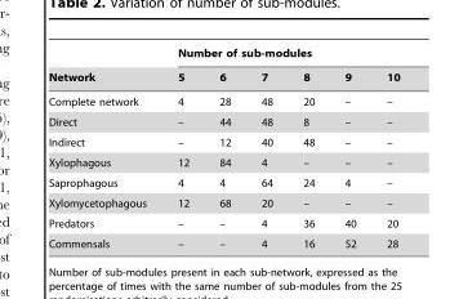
<table><thead><tr><td rowspan="2">Network</td><td colspan="6">Number of sub-modules</td></tr><tr><td>5</td><td>6</td><td>7</td><td>8</td><td>9</td><td>10</td></tr></thead><tbody><tr><td>Complete network</td><td>4</td><td>28</td><td>48</td><td>20</td><td>–</td><td>–</td></tr><tr><td>Direct</td><td>–</td><td>44</td><td>48</td><td>8</td><td>–</td><td>–</td></tr><tr><td>Indirect</td><td>–</td><td>12</td><td>40</td><td>48</td><td>–</td><td>–</td></tr><tr><td>Xylophagous</td><td>12</td><td>84</td><td>4</td><td>–</td><td>–</td><td>–</td></tr><tr><td>Saprophagous</td><td>4</td><td>4</td><td>64</td><td>24</td><td>4</td><td>–</td></tr><tr><td>Xylomycetophagous</td><td>12</td><td>68</td><td>20</td><td>–</td><td>–</td><td>–</td></tr><tr><td>Predators</td><td>–</td><td>–</td><td>4</td><td>36</td><td>40</td><td>20</td></tr><tr><td>Commensals</td><td>–</td><td>–</td><td>4</td><td>16</td><td>52</td><td>28</td></tr></tbody></table>